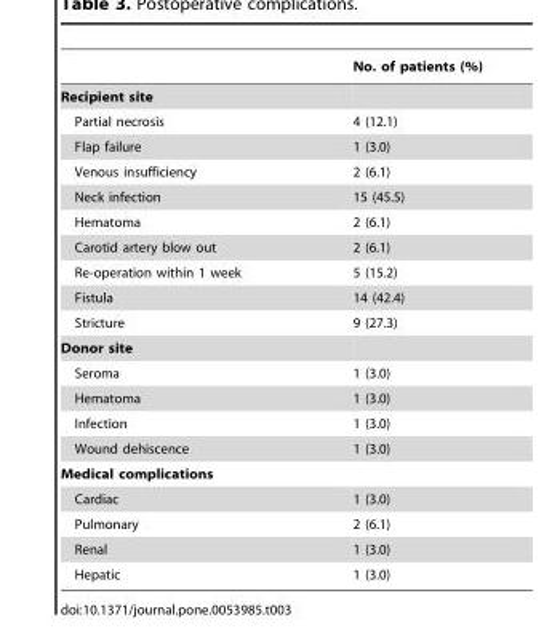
<table><thead><tr><td></td><td>No. of patients (%)</td></tr></thead><tbody><tr><td colspan="2">Recipient site</td></tr><tr><td>Partial necrosis</td><td>4 (12.1)</td></tr><tr><td>Flap failure</td><td>1 (3.0)</td></tr><tr><td>Venous insufficiency</td><td>2 (6.1)</td></tr><tr><td>Neck infection</td><td>15 (45.5)</td></tr><tr><td>Hematoma</td><td>2 (6.1)</td></tr><tr><td>Carotid artery blow out</td><td>2 (6.1)</td></tr><tr><td>Re-operation within 1 week</td><td>5 (15.2)</td></tr><tr><td>Fistula</td><td>14 (42.4)</td></tr><tr><td>Stricture</td><td>9 (27.3)</td></tr><tr><td colspan="2">Donor site</td></tr><tr><td>Seroma</td><td>1 (3.0)</td></tr><tr><td>Hematoma</td><td>1 (3.0)</td></tr><tr><td>Infection</td><td>1 (3.0)</td></tr><tr><td>Wound dehiscence</td><td>1 (3.0)</td></tr><tr><td colspan="2">Medical complications</td></tr><tr><td>Cardiac</td><td>1 (3.0)</td></tr><tr><td>Pulmonary</td><td>2 (6.1)</td></tr><tr><td>Renal</td><td>1 (3.0)</td></tr><tr><td>Hepatic</td><td>1 (3.0)</td></tr></tbody></table>